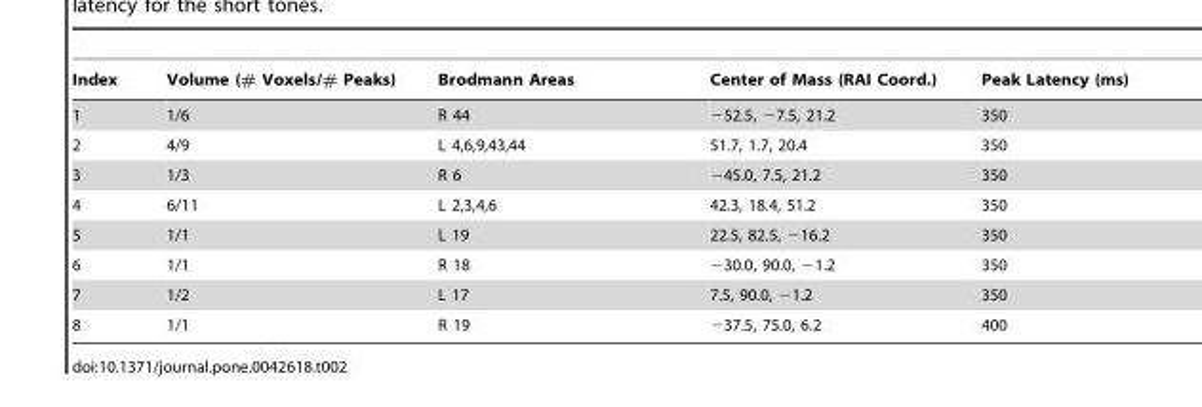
<table><thead><tr><td>Index</td><td>Volume (# Voxels/# Peaks)</td><td>Brodmann Areas</td><td>Center of Mass (RAI Coord.)</td><td>Peak Latency (ms)</td></tr></thead><tbody><tr><td>1</td><td>1/6</td><td>R 44</td><td>−52.5, −7.5, 21.2</td><td>350</td></tr><tr><td>2</td><td>4/9</td><td>L 4,6,9,43,44</td><td>51.7, 1.7, 20.4</td><td>350</td></tr><tr><td>3</td><td>1/3</td><td>R 6</td><td>−45.0, 7.5, 21.2</td><td>350</td></tr><tr><td>4</td><td>6/11</td><td>L 2,3,4,6</td><td>42.3, 18.4, 51.2</td><td>350</td></tr><tr><td>5</td><td>1/1</td><td>L 19</td><td>22.5, 82.5, −16.2</td><td>350</td></tr><tr><td>6</td><td>1/1</td><td>R 18</td><td>−30.0, 90.0, −1.2</td><td>350</td></tr><tr><td>7</td><td>1/2</td><td>L 17</td><td>7.5, 90.0, −1.2</td><td>350</td></tr><tr><td>8</td><td>1/1</td><td>R 19</td><td>−37.5, 75.0, 6.2</td><td>400</td></tr></tbody></table>